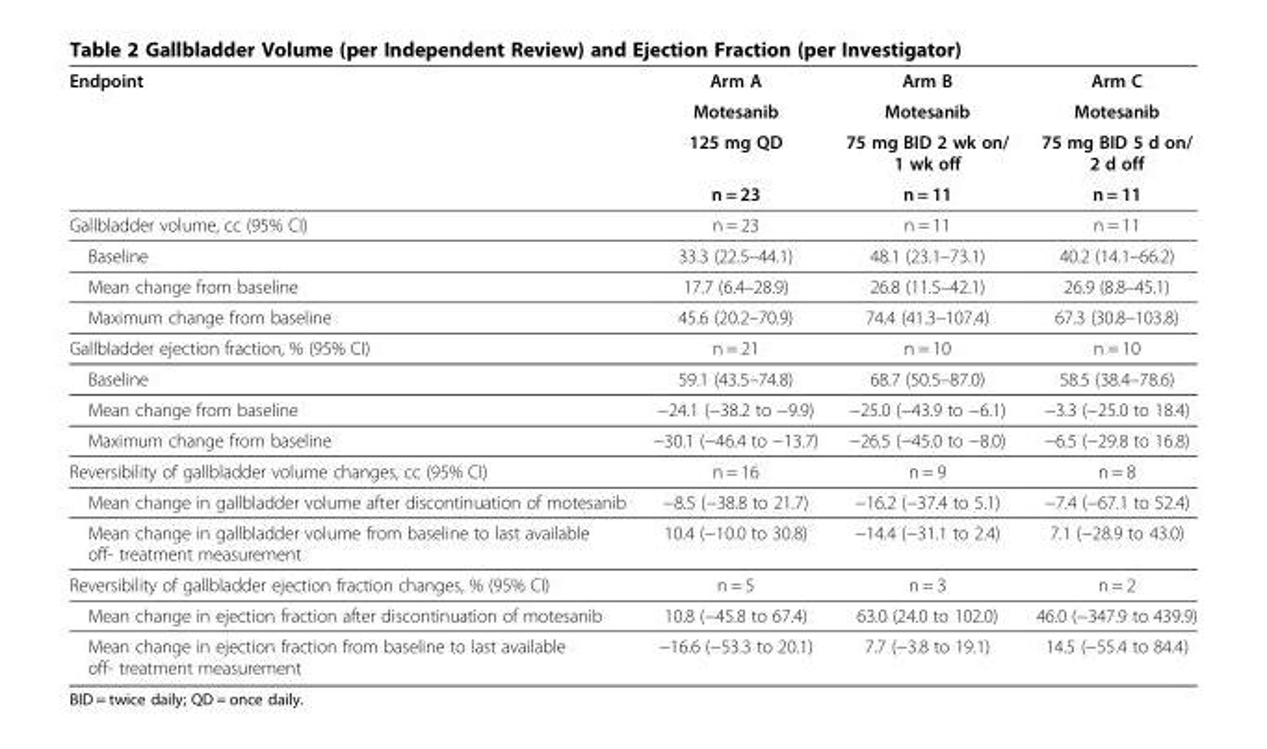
<table><thead><tr><td rowspan="4">Endpoint</td><td rowspan="4">Arm A Motesanib 125 mg QD n = 23</td><td rowspan="4">Arm B Motesanib 75 mg BID 2 wk on/ 1 wk off n = 11</td><td rowspan="4">Arm C Motesanib 75 mg BID 5 d on/ 2 d off n = 11</td></tr><tr></tr><tr></tr><tr></tr></thead><tbody><tr><td>Gallbladder volume, cc (95% CI)</td><td>n = 23</td><td>n = 11</td><td>n = 11</td></tr><tr><td>Baseline</td><td>33.3 (22.5–44.1)</td><td>48.1 (23.1–73.1)</td><td>40.2 (14.1–66.2)</td></tr><tr><td>Mean change from baseline</td><td>17.7 (6.4–28.9)</td><td>26.8 (11.5–42.1)</td><td>26.9 (8.8–45.1)</td></tr><tr><td>Maximum change from baseline</td><td>45.6 (20.2–70.9)</td><td>74.4 (41.3–107.4)</td><td>67.3 (30.8–103.8)</td></tr><tr><td>Gallbladder ejection fraction, % (95% CI)</td><td>n = 21</td><td>n = 10</td><td>n = 10</td></tr><tr><td>Baseline</td><td>59.1 (43.5–74.8)</td><td>68.7 (50.5–87.0)</td><td>58.5 (38.4–78.6)</td></tr><tr><td>Mean change from baseline</td><td>−24.1 (−38.2 to −9.9)</td><td>−25.0 (−43.9 to −6.1)</td><td>−3.3 (−25.0 to 18.4)</td></tr><tr><td>Maximum change from baseline</td><td>−30.1 (−46.4 to −13.7)</td><td>−26.5 (−45.0 to −8.0)</td><td>−6.5 (−29.8 to 16.8)</td></tr><tr><td>Reversibility of gallbladder volume changes, cc (95% CI)</td><td>n = 16</td><td>n = 9</td><td>n = 8</td></tr><tr><td>Mean change in gallbladder volume after discontinuation of motesanib</td><td>−8.5 (−38.8 to 21.7)</td><td>−16.2 (−37.4 to 5.1)</td><td>−7.4 (−67.1 to 52.4)</td></tr><tr><td>Mean change in gallbladder volume from baseline to last available off- treatment measurement</td><td>10.4 (−10.0 to 30.8)</td><td>−14.4 (−31.1 to 2.4)</td><td>7.1 (−28.9 to 43.0)</td></tr><tr><td>Reversibility of gallbladder ejection fraction changes, % (95% CI)</td><td>n = 5</td><td>n = 3</td><td>n = 2</td></tr><tr><td>Mean change in ejection fraction after discontinuation of motesanib</td><td>10.8 (−45.8 to 67.4)</td><td>63.0 (24.0 to 102.0)</td><td>46.0 (−347.9 to 439.9)</td></tr><tr><td>Mean change in ejection fraction from baseline to last available off- treatment measurement</td><td>−16.6 (−53.3 to 20.1)</td><td>7.7 (−3.8 to 19.1)</td><td>14.5 (−55.4 to 84.4)</td></tr></tbody></table>